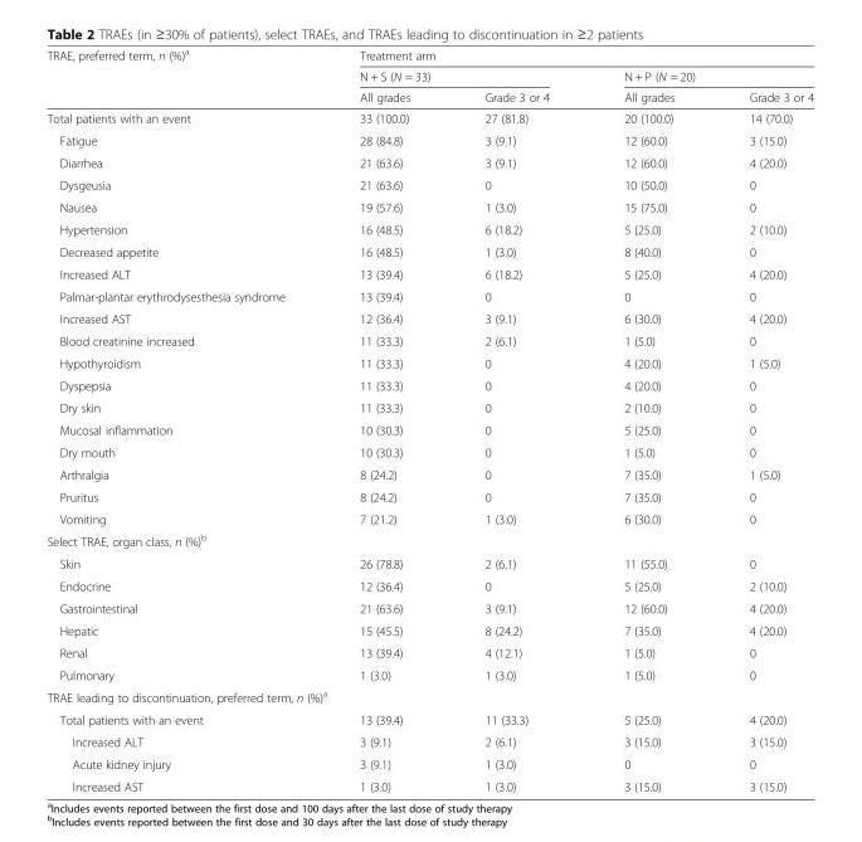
<table><thead><tr><td rowspan="3">TRAE, preferred term, n (%)<sup>a</sup></td><td colspan="4">Treatment arm</td></tr><tr><td colspan="2">N + S (N = 33)</td><td colspan="2">N + P (N = 20)</td></tr><tr><td>All grades</td><td>Grade 3 or 4</td><td>All grades</td><td>Grade 3 or 4</td></tr></thead><tbody><tr><td>Total patients with an event</td><td>33 (100.0)</td><td>27 (81.8)</td><td>20 (100.0)</td><td>14 (70.0)</td></tr><tr><td>Fatigue</td><td>28 (84.8)</td><td>3 (9.1)</td><td>12 (60.0)</td><td>3 (15.0)</td></tr><tr><td>Diarrhea</td><td>21 (63.6)</td><td>3 (9.1)</td><td>12 (60.0)</td><td>4 (20.0)</td></tr><tr><td>Dysgeusia</td><td>21 (63.6)</td><td>0</td><td>10 (50.0)</td><td>0</td></tr><tr><td>Nausea</td><td>19 (57.6)</td><td>1 (3.0)</td><td>15 (75.0)</td><td>0</td></tr><tr><td>Hypertension</td><td>16 (48.5)</td><td>6 (18.2)</td><td>5 (25.0)</td><td>2 (10.0)</td></tr><tr><td>Decreased appetite</td><td>16 (48.5)</td><td>1 (3.0)</td><td>8 (40.0)</td><td>0</td></tr><tr><td>Increased ALT</td><td>13 (39.4)</td><td>6 (18.2)</td><td>5 (25.0)</td><td>4 (20.0)</td></tr><tr><td>Palmar-plantar erythrodysesthesia syndrome</td><td>13 (39.4)</td><td>0</td><td>0</td><td>0</td></tr><tr><td>Increased AST</td><td>12 (36.4)</td><td>3 (9.1)</td><td>6 (30.0)</td><td>4 (20.0)</td></tr><tr><td>Blood creatinine increased</td><td>11 (33.3)</td><td>2 (6.1)</td><td>1 (5.0)</td><td>0</td></tr><tr><td>Hypothyroidism</td><td>11 (33.3)</td><td>0</td><td>4 (20.0)</td><td>1 (5.0)</td></tr><tr><td>Dyspepsia</td><td>11 (33.3)</td><td>0</td><td>4 (20.0)</td><td>0</td></tr><tr><td>Dry skin</td><td>11 (33.3)</td><td>0</td><td>2 (10.0)</td><td>0</td></tr><tr><td>Mucosal inflammation</td><td>10 (30.3)</td><td>0</td><td>5 (25.0)</td><td>0</td></tr><tr><td>Dry mouth</td><td>10 (30.3)</td><td>0</td><td>1 (5.0)</td><td>0</td></tr><tr><td>Arthralgia</td><td>8 (24.2)</td><td>0</td><td>7 (35.0)</td><td>1 (5.0)</td></tr><tr><td>Pruritus</td><td>8 (24.2)</td><td>0</td><td>7 (35.0)</td><td>0</td></tr><tr><td>Vomiting</td><td>7 (21.2)</td><td>1 (3.0)</td><td>6 (30.0)</td><td>0</td></tr><tr><td colspan="5">Select TRAE, organ class, n (%)<sup>b</sup></td></tr><tr><td>Skin</td><td>26 (78.8)</td><td>2 (6.1)</td><td>11 (55.0)</td><td>0</td></tr><tr><td>Endocrine</td><td>12 (36.4)</td><td>0</td><td>5 (25.0)</td><td>2 (10.0)</td></tr><tr><td>Gastrointestinal</td><td>21 (63.6)</td><td>3 (9.1)</td><td>12 (60.0)</td><td>4 (20.0)</td></tr><tr><td>Hepatic</td><td>15 (45.5)</td><td>8 (24.2)</td><td>7 (35.0)</td><td>4 (20.0)</td></tr><tr><td>Renal</td><td>13 (39.4)</td><td>4 (12.1)</td><td>1 (5.0)</td><td>0</td></tr><tr><td>Pulmonary</td><td>1 (3.0)</td><td>1 (3.0)</td><td>1 (5.0)</td><td>0</td></tr><tr><td colspan="5">TRAE leading to discontinuation, preferred term, n (%)<sup>a</sup></td></tr><tr><td>Total patients with an event</td><td>13 (39.4)</td><td>11 (33.3)</td><td>5 (25.0)</td><td>4 (20.0)</td></tr><tr><td>Increased ALT</td><td>3 (9.1)</td><td>2 (6.1)</td><td>3 (15.0)</td><td>3 (15.0)</td></tr><tr><td>Acute kidney injury</td><td>3 (9.1)</td><td>1 (3.0)</td><td>0</td><td>0</td></tr><tr><td>Increased AST</td><td>1 (3.0)</td><td>1 (3.0)</td><td>3 (15.0)</td><td>3 (15.0)</td></tr></tbody></table>